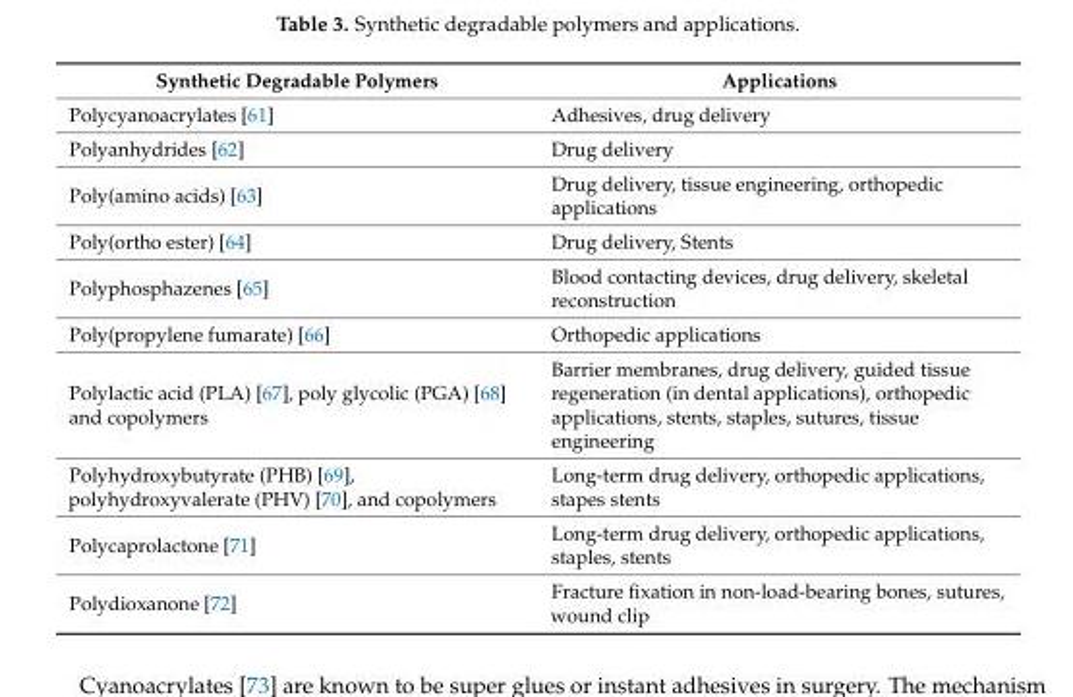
<table><thead><tr><td>Synthetic Degradable Polymers</td><td>Applications</td></tr></thead><tbody><tr><td>Polycyanoacrylates [61]</td><td>Adhesives, drug delivery</td></tr><tr><td>Polyanhydrides [62]</td><td>Drug delivery</td></tr><tr><td>Poly(amino acids) [63]</td><td>Drug delivery, tissue engineering, orthopedic applications</td></tr><tr><td>Poly(ortho ester) [64]</td><td>Drug delivery, Stents</td></tr><tr><td>Polyphosphazenes [65]</td><td>Blood contacting devices, drug delivery, skeletal reconstruction</td></tr><tr><td>Poly(propylene fumarate) [66]</td><td>Orthopedic applications</td></tr><tr><td>Polylactic acid (PLA) [67], poly glycolic (PGA) [68] and copolymers</td><td>Barrier membranes, drug delivery, guided tissue regeneration (in dental applications), orthopedic applications, stents, staples, sutures, tissue engineering</td></tr><tr><td>Polyhydroxybutyrate (PHB) [69], polyhydroxyvalerate (PHV) [70], and copolymers</td><td>Long-term drug delivery, orthopedic applications, stapes stents</td></tr><tr><td>Polycaprolactone [71]</td><td>Long-term drug delivery, orthopedic applications, staples, stents</td></tr><tr><td>Polydioxanone [72]</td><td>Fracture fixation in non-load-bearing bones, sutures, wound clip</td></tr></tbody></table>